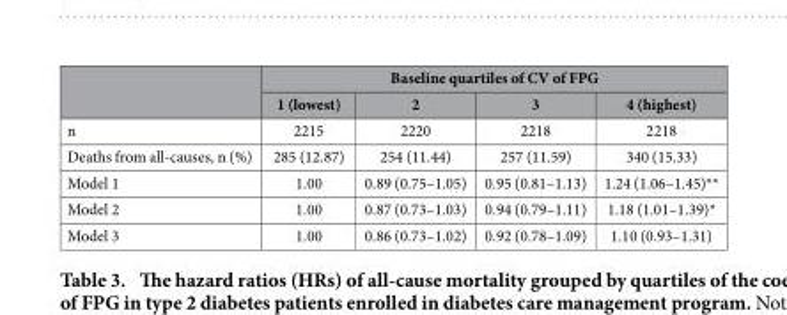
<table><thead><tr><td rowspan="2"></td><td colspan="4">Baseline quartiles of CV of FPG</td></tr><tr><td>1 (lowest)</td><td>2</td><td>3</td><td>4 (highest)</td></tr></thead><tbody><tr><td>n</td><td>2215</td><td>2220</td><td>2218</td><td>2218</td></tr><tr><td>Deaths from all-causes, n (%)</td><td>285 (12.87)</td><td>254 (11.44)</td><td>257 (11.59)</td><td>340 (15.33)</td></tr><tr><td>Model 1</td><td>1.00</td><td>0.89 (0.75–1.05)</td><td>0.95 (0.81–1.13)</td><td>1.24 (1.06–1.45)**</td></tr><tr><td>Model 2</td><td>1.00</td><td>0.87 (0.73–1.03)</td><td>0.94 (0.79–1.11)</td><td>1.18 (1.01–1.39)*</td></tr><tr><td>Model 3</td><td>1.00</td><td>0.86 (0.73–1.02)</td><td>0.92 (0.78–1.09)</td><td>1.10 (0.93–1.31)</td></tr></tbody></table>